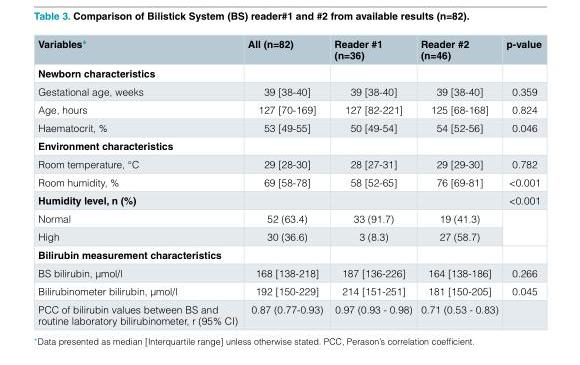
<table><thead><tr><td>Variables*</td><td>All (n=82)</td><td>Reader #1 (n=36)</td><td>Reader #2 (n=46)</td><td>p-value</td></tr></thead><tbody><tr><td colspan="5">Newborn characteristics</td></tr><tr><td>Gestational age, weeks</td><td>39 [38-40]</td><td>39 [38-40]</td><td>39 [38-40]</td><td>0.359</td></tr><tr><td>Age, hours</td><td>127 [70-169]</td><td>127 [82-221]</td><td>125 [68-168]</td><td>0.824</td></tr><tr><td>Haematocrit, %</td><td>53 [49-55]</td><td>50 [49-54]</td><td>54 [52-56]</td><td>0.046</td></tr><tr><td colspan="5">Environment characteristics</td></tr><tr><td>Room temperature, °C</td><td>29 [28-30]</td><td>28 [27-31]</td><td>29 [29-30]</td><td>0.782</td></tr><tr><td>Room humidity, %</td><td>69 [58-78]</td><td>58 [52-65]</td><td>76 [69-81]</td><td>&lt;0.001</td></tr><tr><td>Humidity level, n (%)</td><td></td><td></td><td></td><td>&lt;0.001</td></tr><tr><td>Normal</td><td>52 (63.4)</td><td>33 (91.7)</td><td>19 (41.3)</td><td rowspan="2"></td></tr><tr><td>High</td><td>30 (36.6)</td><td>3 (8.3)</td><td>27 (58.7)</td></tr><tr><td colspan="5">Bilirubin measurement characteristics</td></tr><tr><td>BS bilirubin, µmol/l</td><td>168 [138-218]</td><td>187 [136-226]</td><td>164 [138-186]</td><td>0.266</td></tr><tr><td>Bilirubinometer bilirubin, µmol/l</td><td>192 [150-229]</td><td>214 [151-251]</td><td>181 [150-205]</td><td>0.045</td></tr><tr><td>PCC of bilirubin values between BS and routine laboratory bilirubinometer, r (95% CI)</td><td>0.87 (0.77-0.93)</td><td>0.97 (0.93 - 0.98)</td><td>0.71 (0.53 - 0.83)</td><td></td></tr></tbody></table>